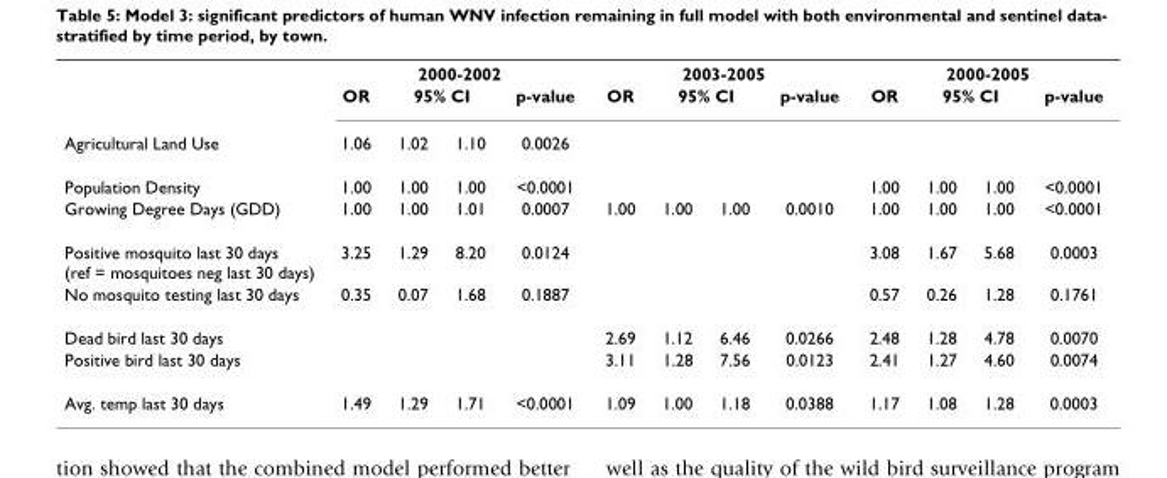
<table><thead><tr><td rowspan="3">Agricultural Land Use</td><td colspan="4">2000-2002</td><td colspan="4">2003-2005</td><td colspan="4">2000-2005</td></tr><tr><td rowspan="2">OR 1.06</td><td colspan="2">95% CI</td><td rowspan="2">p-value 0.0026</td><td rowspan="2">OR</td><td colspan="2">95% CI</td><td rowspan="2">p-value</td><td rowspan="2">OR</td><td colspan="2">95% CI</td><td rowspan="2">p-value</td></tr><tr><td>1.02</td><td>1.10</td><td></td><td></td><td></td><td></td></tr></thead><tbody><tr><td>Population Density</td><td>1.00</td><td>1.00</td><td>1.00</td><td>&lt;0.0001</td><td></td><td></td><td></td><td></td><td>1.00</td><td>1.00</td><td>1.00</td><td>&lt;0.0001</td></tr><tr><td>Growing Degree Days (GDD)</td><td>1.00</td><td>1.00</td><td>1.01</td><td>0.0007</td><td>1.00</td><td>1.00</td><td>1.00</td><td>0.0010</td><td>1.00</td><td>1.00</td><td>1.00</td><td>&lt;0.0001</td></tr><tr><td>Positive mosquito last 30 days (ref = mosquitoes neg last 30 days)</td><td>3.25</td><td>1.29</td><td>8.20</td><td>0.0124</td><td></td><td></td><td></td><td></td><td>3.08</td><td>1.67</td><td>5.68</td><td>0.0003</td></tr><tr><td>No mosquito testing last 30 days</td><td>0.35</td><td>0.07</td><td>1.68</td><td>0.1887</td><td></td><td></td><td></td><td></td><td>0.57</td><td>0.26</td><td>1.28</td><td>0.1761</td></tr><tr><td>Dead bird last 30 days</td><td></td><td></td><td></td><td></td><td>2.69</td><td>1.12</td><td>6.46</td><td>0.0266</td><td>2.48</td><td>1.28</td><td>4.78</td><td>0.0070</td></tr><tr><td>Positive bird last 30 days</td><td></td><td></td><td></td><td></td><td>3.11</td><td>1.28</td><td>7.56</td><td>0.0123</td><td>2.41</td><td>1.27</td><td>4.60</td><td>0.0074</td></tr><tr><td>Avg. temp last 30 days</td><td>1.49</td><td>1.29</td><td>1.71</td><td>&lt;0.0001</td><td>1.09</td><td>1.00</td><td>1.18</td><td>0.0388</td><td>1.17</td><td>1.08</td><td>1.28</td><td>0.0003</td></tr></tbody></table>